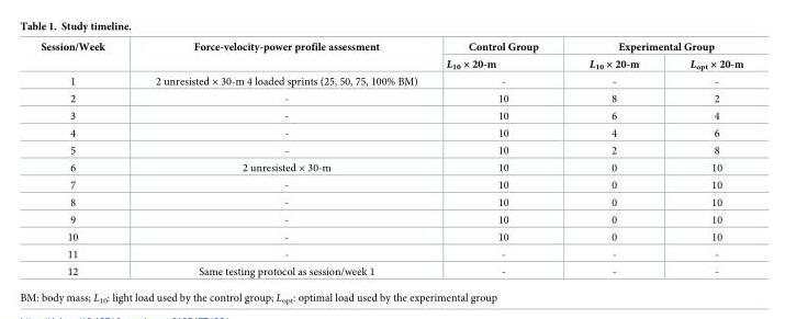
<table><thead><tr><td rowspan="2">Session/Week</td><td rowspan="2">Force-velocity-power profile assessment</td><td rowspan="2">Control Group L<sub>10</sub> × 20-m</td><td colspan="2">Experimental Group</td></tr><tr><td>L<sub>10</sub> × 20-m</td><td>L<sub>opt</sub> × 20-m</td></tr></thead><tbody><tr><td>1</td><td>2 unresisted × 30-m 4 loaded sprints (25, 50, 75, 100% BM)</td><td>-</td><td>-</td><td>-</td></tr><tr><td>2</td><td>-</td><td>10</td><td>8</td><td>2</td></tr><tr><td>3</td><td>-</td><td>10</td><td>6</td><td>4</td></tr><tr><td>4</td><td>-</td><td>10</td><td>4</td><td>6</td></tr><tr><td>5</td><td>-</td><td>10</td><td>2</td><td>8</td></tr><tr><td>6</td><td>2 unresisted × 30-m</td><td>10</td><td>0</td><td>10</td></tr><tr><td>7</td><td>-</td><td>10</td><td>0</td><td>10</td></tr><tr><td>8</td><td>-</td><td>10</td><td>0</td><td>10</td></tr><tr><td>9</td><td>-</td><td>10</td><td>0</td><td>10</td></tr><tr><td>10</td><td>-</td><td>10</td><td>0</td><td>10</td></tr><tr><td>11</td><td>-</td><td>-</td><td>-</td><td>-</td></tr><tr><td>12</td><td>Same testing protocol as session/week 1</td><td>-</td><td>-</td><td>-</td></tr></tbody></table>